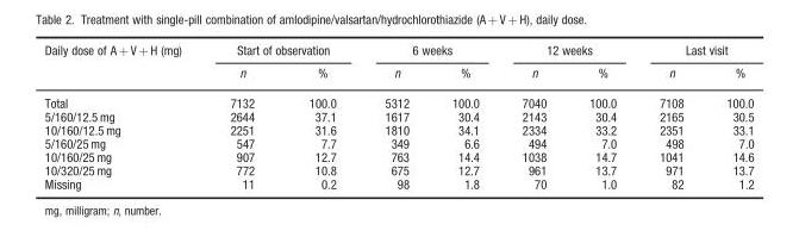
<table><thead><tr><td rowspan="2">Daily dose of A + V + H (mg)</td><td colspan="2">Start of observation</td><td colspan="2">6 weeks</td><td colspan="2">12 weeks</td><td colspan="2">Last visit</td></tr><tr><td>n</td><td>%</td><td>n</td><td>%</td><td>n</td><td>%</td><td>n</td><td>%</td></tr></thead><tbody><tr><td>Total</td><td>7132</td><td>100.0</td><td>5312</td><td>100.0</td><td>7040</td><td>100.0</td><td>7108</td><td>100.0</td></tr><tr><td>5/160/12.5 mg</td><td>2644</td><td>37.1</td><td>1617</td><td>30.4</td><td>2143</td><td>30.4</td><td>2165</td><td>30.5</td></tr><tr><td>10/160/12.5 mg</td><td>2251</td><td>31.6</td><td>1810</td><td>34.1</td><td>2334</td><td>33.2</td><td>2351</td><td>33.1</td></tr><tr><td>5/160/25 mg</td><td>547</td><td>7.7</td><td>349</td><td>6.6</td><td>494</td><td>7.0</td><td>498</td><td>7.0</td></tr><tr><td>10/160/25 mg</td><td>907</td><td>12.7</td><td>763</td><td>14.4</td><td>1038</td><td>14.7</td><td>1041</td><td>14.6</td></tr><tr><td>10/320/25 mg</td><td>772</td><td>10.8</td><td>675</td><td>12.7</td><td>961</td><td>13.7</td><td>971</td><td>13.7</td></tr><tr><td>Missing</td><td>11</td><td>0.2</td><td>98</td><td>1.8</td><td>70</td><td>1.0</td><td>82</td><td>1.2</td></tr></tbody></table>